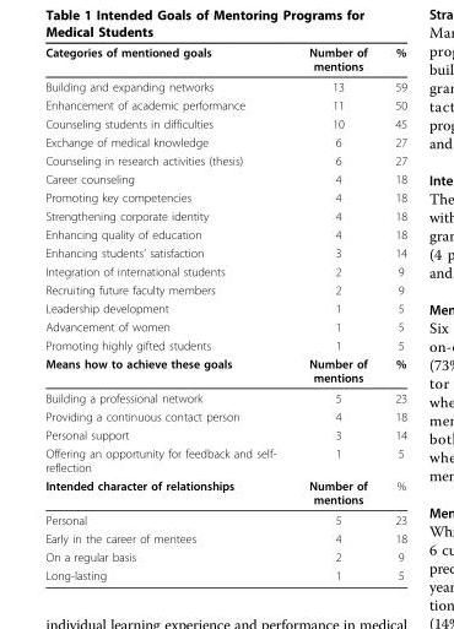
<table><thead><tr><td>Categories of mentioned goals</td><td>Number of mentions</td><td>%</td></tr></thead><tbody><tr><td>Building and expanding networks</td><td>13</td><td>59</td></tr><tr><td>Enhancement of academic performance</td><td>11</td><td>50</td></tr><tr><td>Counseling students in difficulties</td><td>10</td><td>45</td></tr><tr><td>Exchange of medical knowledge</td><td>6</td><td>27</td></tr><tr><td>Counseling in research activities (thesis)</td><td>6</td><td>27</td></tr><tr><td>Career counseling</td><td>4</td><td>18</td></tr><tr><td>Promoting key competencies</td><td>4</td><td>18</td></tr><tr><td>Strengthening corporate identity</td><td>4</td><td>18</td></tr><tr><td>Enhancing quality of education</td><td>4</td><td>18</td></tr><tr><td>Enhancing students’ satisfaction</td><td>3</td><td>14</td></tr><tr><td>Integration of international students</td><td>2</td><td>9</td></tr><tr><td>Recruiting future faculty members</td><td>2</td><td>9</td></tr><tr><td>Leadership development</td><td>1</td><td>5</td></tr><tr><td>Advancement of women</td><td>1</td><td>5</td></tr><tr><td>Promoting highly gifted students</td><td>1</td><td>5</td></tr><tr><td>Means how to achieve these goals</td><td>Number of mentions</td><td>%</td></tr><tr><td>Building a professional network</td><td>5</td><td>23</td></tr><tr><td>Providing a continuous contact person</td><td>4</td><td>18</td></tr><tr><td>Personal support</td><td>3</td><td>14</td></tr><tr><td>Offering an opportunity for feedback and self- reflection</td><td>1</td><td>5</td></tr><tr><td>Intended character of relationships</td><td>Number of mentions</td><td>%</td></tr><tr><td>Personal</td><td>5</td><td>23</td></tr><tr><td>Early in the career of mentees</td><td>4</td><td>18</td></tr><tr><td>On a regular basis</td><td>2</td><td>9</td></tr><tr><td>Long-lasting</td><td>1</td><td>5</td></tr></tbody></table>